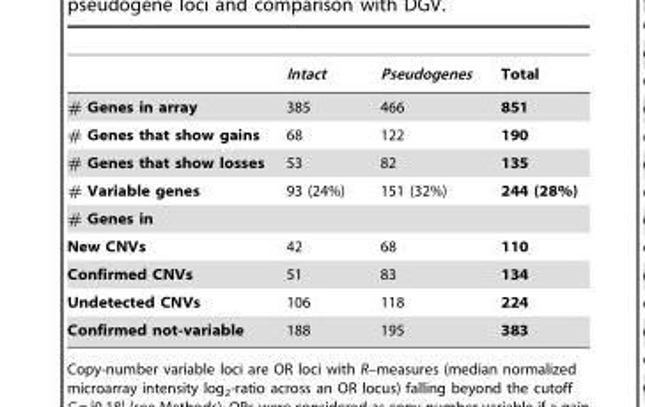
<table><thead><tr><td></td><td>Intact</td><td>Pseudogenes</td><td>Total</td></tr></thead><tbody><tr><td># Genes in array</td><td>385</td><td>466</td><td>851</td></tr><tr><td># Genes that show gains</td><td>68</td><td>122</td><td>190</td></tr><tr><td># Genes that show losses</td><td>53</td><td>82</td><td>135</td></tr><tr><td># Variable genes</td><td>93 (24%)</td><td>151 (32%)</td><td>244 (28%)</td></tr><tr><td colspan="4"># Genes in</td></tr><tr><td>New CNVs</td><td>42</td><td>68</td><td>110</td></tr><tr><td>Confirmed CNVs</td><td>51</td><td>83</td><td>134</td></tr><tr><td>Undetected CNVs</td><td>106</td><td>118</td><td>224</td></tr><tr><td>Confirmed not-variable</td><td>188</td><td>195</td><td>383</td></tr></tbody></table>